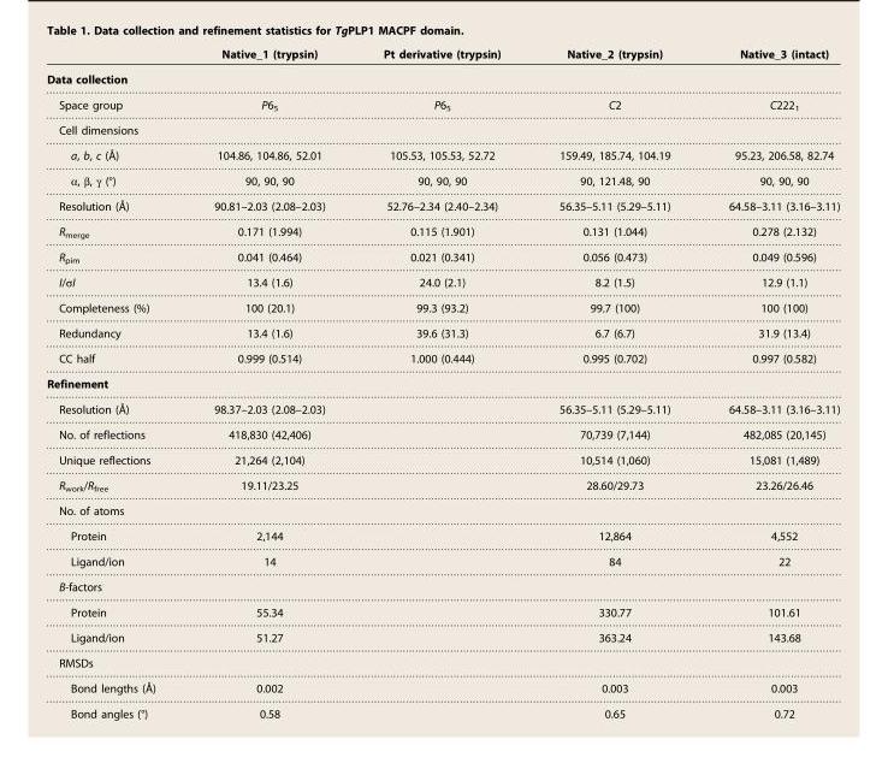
<table><thead><tr><td></td><td>Native_1 (trypsin)</td><td>Pt derivative (trypsin)</td><td>Native_2 (trypsin)</td><td>Native_3 (intact)</td></tr></thead><tbody><tr><td colspan="5">Data collection</td></tr><tr><td>Space group</td><td>P6<sub>5</sub></td><td>P6<sub>5</sub></td><td>C2</td><td>C222<sub>1</sub></td></tr><tr><td colspan="5">Cell dimensions</td></tr><tr><td>a, b, c (Å)</td><td>104.86, 104.86, 52.01</td><td>105.53, 105.53, 52.72</td><td>159.49, 185.74, 104.19</td><td>95.23, 206.58, 82.74</td></tr><tr><td>α, β, γ (°)</td><td>90, 90, 90</td><td>90, 90, 90</td><td>90, 121.48, 90</td><td>90, 90, 90</td></tr><tr><td>Resolution (Å)</td><td>90.81–2.03 (2.08–2.03)</td><td>52.76–2.34 (2.40–2.34)</td><td>56.35–5.11 (5.29–5.11)</td><td>64.58–3.11 (3.16–3.11)</td></tr><tr><td>R<sub>merge</sub></td><td>0.171 (1.994)</td><td>0.115 (1.901)</td><td>0.131 (1.044)</td><td>0.278 (2.132)</td></tr><tr><td>R<sub>pim</sub></td><td>0.041 (0.464)</td><td>0.021 (0.341)</td><td>0.056 (0.473)</td><td>0.049 (0.596)</td></tr><tr><td>I/σI</td><td>13.4 (1.6)</td><td>24.0 (2.1)</td><td>8.2 (1.5)</td><td>12.9 (1.1)</td></tr><tr><td>Completeness (%)</td><td>100 (20.1)</td><td>99.3 (93.2)</td><td>99.7 (100)</td><td>100 (100)</td></tr><tr><td>Redundancy</td><td>13.4 (1.6)</td><td>39.6 (31.3)</td><td>6.7 (6.7)</td><td>31.9 (13.4)</td></tr><tr><td>CC half</td><td>0.999 (0.514)</td><td>1.000 (0.444)</td><td>0.995 (0.702)</td><td>0.997 (0.582)</td></tr><tr><td colspan="5">Refinement</td></tr><tr><td>Resolution (Å)</td><td>98.37–2.03 (2.08–2.03)</td><td></td><td>56.35–5.11 (5.29–5.11)</td><td>64.58–3.11 (3.16–3.11)</td></tr><tr><td>No. of reflections</td><td>418,830 (42,406)</td><td></td><td>70,739 (7,144)</td><td>482,085 (20,145)</td></tr><tr><td>Unique reflections</td><td>21,264 (2,104)</td><td></td><td>10,514 (1,060)</td><td>15,081 (1,489)</td></tr><tr><td>R<sub>work</sub>/R<sub>free</sub></td><td>19.11/23.25</td><td></td><td>28.60/29.73</td><td>23.26/26.46</td></tr><tr><td colspan="5">No. of atoms</td></tr><tr><td>Protein</td><td>2,144</td><td></td><td>12,864</td><td>4,552</td></tr><tr><td>Ligand/ion</td><td>14</td><td></td><td>84</td><td>22</td></tr><tr><td colspan="5">B-factors</td></tr><tr><td>Protein</td><td>55.34</td><td></td><td>330.77</td><td>101.61</td></tr><tr><td>Ligand/ion</td><td>51.27</td><td></td><td>363.24</td><td>143.68</td></tr><tr><td colspan="5">RMSDs</td></tr><tr><td>Bond lengths (Å)</td><td>0.002</td><td></td><td>0.003</td><td>0.003</td></tr><tr><td>Bond angles (°)</td><td>0.58</td><td></td><td>0.65</td><td>0.72</td></tr></tbody></table>